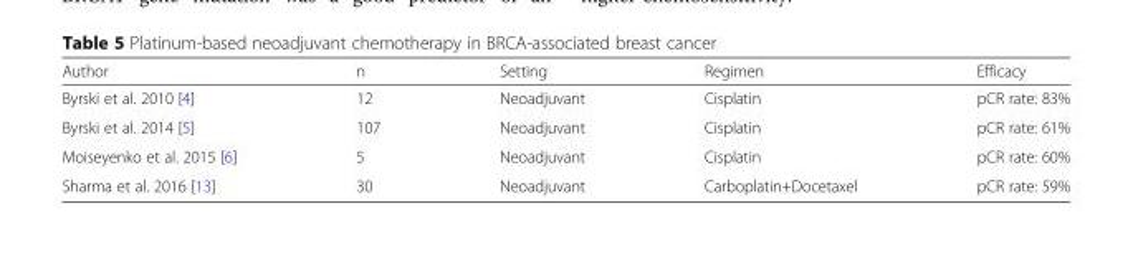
<table><thead><tr><td>Author</td><td>n</td><td>Setting</td><td>Regimen</td><td>Efficacy</td></tr></thead><tbody><tr><td>Byrski et al. 2010 [4]</td><td>12</td><td>Neoadjuvant</td><td>Cisplatin</td><td>pCR rate: 83%</td></tr><tr><td>Byrski et al. 2014 [5]</td><td>107</td><td>Neoadjuvant</td><td>Cisplatin</td><td>pCR rate: 61%</td></tr><tr><td>Moiseyenko et al. 2015 [6]</td><td>5</td><td>Neoadjuvant</td><td>Cisplatin</td><td>pCR rate: 60%</td></tr><tr><td>Sharma et al. 2016 [13]</td><td>30</td><td>Neoadjuvant</td><td>Carboplatin+Docetaxel</td><td>pCR rate: 59%</td></tr></tbody></table>